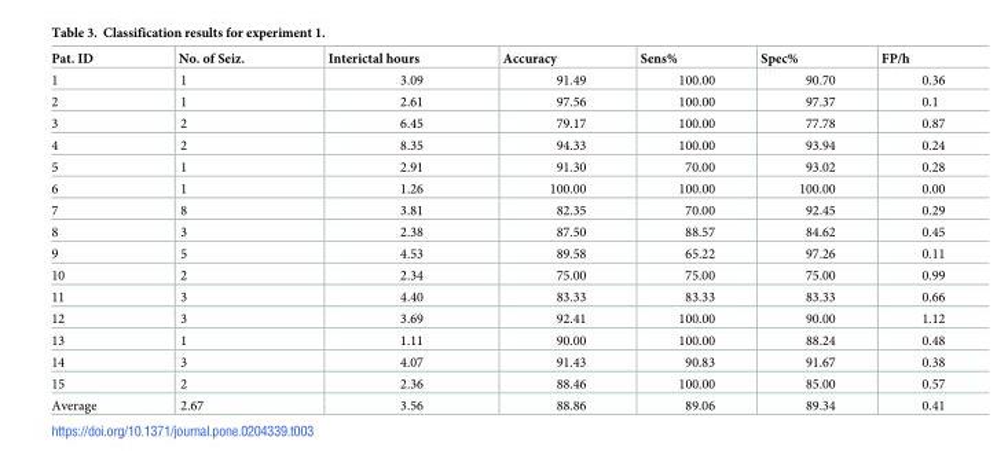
<table><thead><tr><td>Pat. ID</td><td>No. of Seiz.</td><td>Interictal hours</td><td>Accuracy</td><td>Sens%</td><td>Spec%</td><td>FP/h</td></tr></thead><tbody><tr><td>1</td><td>1</td><td>3.09</td><td>91.49</td><td>100.00</td><td>90.70</td><td>0.36</td></tr><tr><td>2</td><td>1</td><td>2.61</td><td>97.56</td><td>100.00</td><td>97.37</td><td>0.1</td></tr><tr><td>3</td><td>2</td><td>6.45</td><td>79.17</td><td>100.00</td><td>77.78</td><td>0.87</td></tr><tr><td>4</td><td>2</td><td>8.35</td><td>94.33</td><td>100.00</td><td>93.94</td><td>0.24</td></tr><tr><td>5</td><td>1</td><td>2.91</td><td>91.30</td><td>70.00</td><td>93.02</td><td>0.28</td></tr><tr><td>6</td><td>1</td><td>1.26</td><td>100.00</td><td>100.00</td><td>100.00</td><td>0.00</td></tr><tr><td>7</td><td>8</td><td>3.81</td><td>82.35</td><td>70.00</td><td>92.45</td><td>0.29</td></tr><tr><td>8</td><td>3</td><td>2.38</td><td>87.50</td><td>88.57</td><td>84.62</td><td>0.45</td></tr><tr><td>9</td><td>5</td><td>4.53</td><td>89.58</td><td>65.22</td><td>97.26</td><td>0.11</td></tr><tr><td>10</td><td>2</td><td>2.34</td><td>75.00</td><td>75.00</td><td>75.00</td><td>0.99</td></tr><tr><td>11</td><td>3</td><td>4.40</td><td>83.33</td><td>83.33</td><td>83.33</td><td>0.66</td></tr><tr><td>12</td><td>3</td><td>3.69</td><td>92.41</td><td>100.00</td><td>90.00</td><td>1.12</td></tr><tr><td>13</td><td>1</td><td>1.11</td><td>90.00</td><td>100.00</td><td>88.24</td><td>0.48</td></tr><tr><td>14</td><td>3</td><td>4.07</td><td>91.43</td><td>90.83</td><td>91.67</td><td>0.38</td></tr><tr><td>15</td><td>2</td><td>2.36</td><td>88.46</td><td>100.00</td><td>85.00</td><td>0.57</td></tr><tr><td>Average</td><td>2.67</td><td>3.56</td><td>88.86</td><td>89.06</td><td>89.34</td><td>0.41</td></tr></tbody></table>